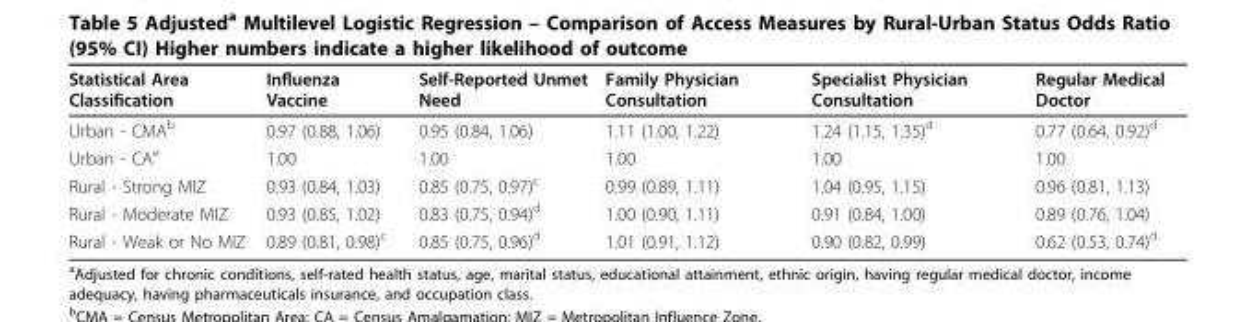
<table><thead><tr><td>Statistical Area Classification</td><td>Influenza Vaccine</td><td>Self-Reported Unmet Need</td><td>Family Physician Consultation</td><td>Specialist Physician Consultation</td><td>Regular Medical Doctor</td></tr></thead><tbody><tr><td>Urban - CMA<sup>b</sup></td><td>0.97 (0.88, 1.06)</td><td>0.95 (0.84, 1.06)</td><td>1.11 (1.00, 1.22)</td><td>1.24 (1.15, 1.35)<sup>d</sup></td><td>0.77 (0.64, 0.92)<sup>d</sup></td></tr><tr><td>Urban - CA<sup>e</sup></td><td>1.00</td><td>1.00</td><td>1.00</td><td>1.00</td><td>1.00</td></tr><tr><td>Rural - Strong MIZ</td><td>0.93 (0.84, 1.03)</td><td>0.85 (0.75, 0.97)<sup>c</sup></td><td>0.99 (0.89, 1.11)</td><td>1.04 (0.95, 1.15)</td><td>0.96 (0.81, 1.13)</td></tr><tr><td>Rural - Moderate MIZ</td><td>0.93 (0.85, 1.02)</td><td>0.83 (0.75, 0.94)<sup>d</sup></td><td>1.00 (0.90, 1.11)</td><td>0.91 (0.84, 1.00)</td><td>0.89 (0.76, 1.04)</td></tr><tr><td>Rural - Weak or No MIZ</td><td>0.89 (0.81, 0.98)<sup>c</sup></td><td>0.85 (0.75, 0.96)<sup>d</sup></td><td>1.01 (0.91, 1.12)</td><td>0.90 (0.82, 0.99)</td><td>0.62 (0.53, 0.74)<sup>d</sup></td></tr></tbody></table>